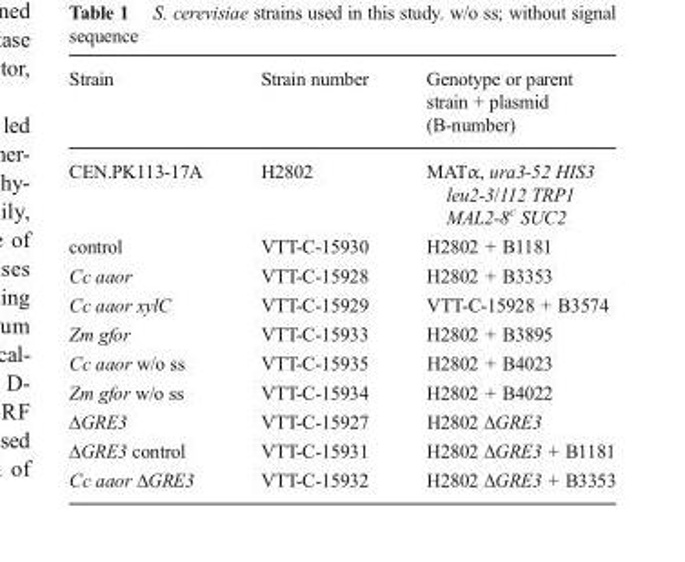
<table><thead><tr><td>Strain</td><td>Strain number</td><td>Genotype or parent strain + plasmid (B-number)</td></tr></thead><tbody><tr><td>CEN.PK113-17A</td><td>H2802</td><td>MATα, ura3-52 HIS3 leu2-3/112 TRP1 MAL2-8<sup>c</sup> SUC2</td></tr><tr><td>control</td><td>VTT-C-15930</td><td>H2802 + B1181</td></tr><tr><td>Cc aaor</td><td>VTT-C-15928</td><td>H2802 + B3353</td></tr><tr><td>Cc aaor xylC</td><td>VTT-C-15929</td><td>VTT-C-15928 + B3574</td></tr><tr><td>Zm gfor</td><td>VTT-C-15933</td><td>H2802 + B3895</td></tr><tr><td>Cc aaor w/o ss</td><td>VTT-C-15935</td><td>H2802 + B4023</td></tr><tr><td>Zm gfor w/o ss</td><td>VTT-C-15934</td><td>H2802 + B4022</td></tr><tr><td>ΔGRE3</td><td>VTT-C-15927</td><td>H2802 ΔGRE3</td></tr><tr><td>ΔGRE3 control</td><td>VTT-C-15931</td><td>H2802 ΔGRE3 + B1181</td></tr><tr><td>Cc aaor ΔGRE3</td><td>VTT-C-15932</td><td>H2802 ΔGRE3 + B3353</td></tr></tbody></table>